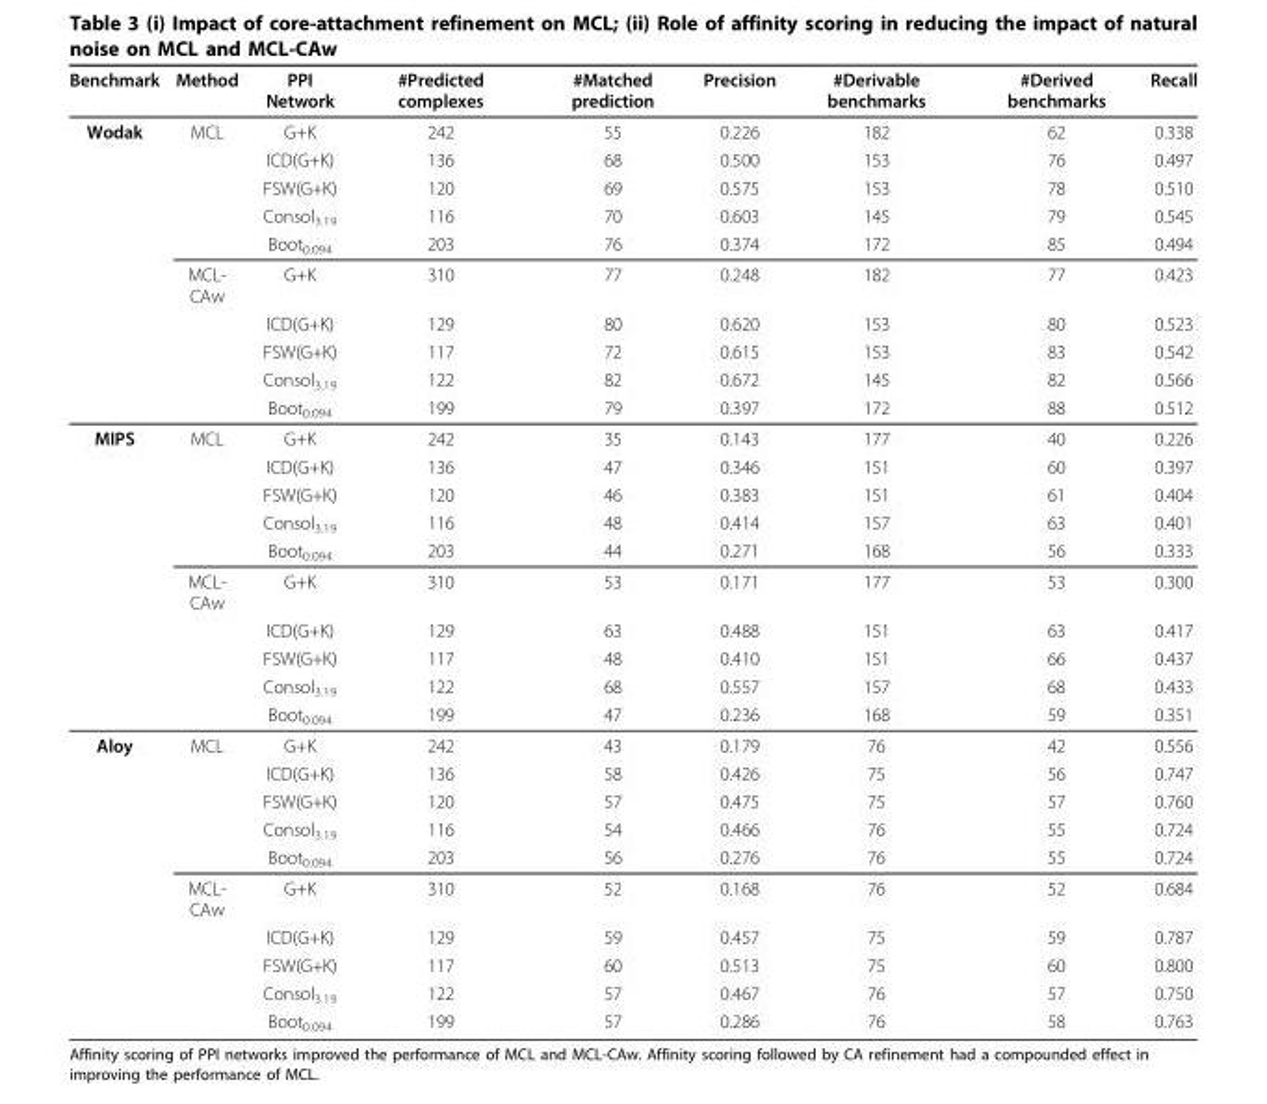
<table><thead><tr><td>Benchmark</td><td>Method</td><td>PPI Network</td><td>#Predicted complexes</td><td>#Matched prediction</td><td>Precision</td><td>#Derivable benchmarks</td><td>#Derived benchmarks</td><td>Recall</td></tr></thead><tbody><tr><td rowspan="10">Wodak</td><td>MCL</td><td>G+K</td><td>242</td><td>55</td><td>0.226</td><td>182</td><td>62</td><td>0.338</td></tr><tr><td></td><td>ICD(G+K)</td><td>136</td><td>68</td><td>0.500</td><td>153</td><td>76</td><td>0.497</td></tr><tr><td></td><td>FSW(G+K)</td><td>120</td><td>69</td><td>0.575</td><td>153</td><td>78</td><td>0.510</td></tr><tr><td></td><td>Consol<sub>3.19</sub></td><td>116</td><td>70</td><td>0.603</td><td>145</td><td>79</td><td>0.545</td></tr><tr><td></td><td>Boot<sub>0.094</sub></td><td>203</td><td>76</td><td>0.374</td><td>172</td><td>85</td><td>0.494</td></tr><tr><td>MCL- CAw</td><td>G+K</td><td>310</td><td>77</td><td>0.248</td><td>182</td><td>77</td><td>0.423</td></tr><tr><td></td><td>ICD(G+K)</td><td>129</td><td>80</td><td>0.620</td><td>153</td><td>80</td><td>0.523</td></tr><tr><td></td><td>FSW(G+K)</td><td>117</td><td>72</td><td>0.615</td><td>153</td><td>83</td><td>0.542</td></tr><tr><td></td><td>Consol<sub>3.19</sub></td><td>122</td><td>82</td><td>0.672</td><td>145</td><td>82</td><td>0.566</td></tr><tr><td></td><td>Boot<sub>0.094</sub></td><td>199</td><td>79</td><td>0.397</td><td>172</td><td>88</td><td>0.512</td></tr><tr><td rowspan="10">MIPS</td><td>MCL</td><td>G+K</td><td>242</td><td>35</td><td>0.143</td><td>177</td><td>40</td><td>0.226</td></tr><tr><td></td><td>ICD(G+K)</td><td>136</td><td>47</td><td>0.346</td><td>151</td><td>60</td><td>0.397</td></tr><tr><td></td><td>FSW(G+K)</td><td>120</td><td>46</td><td>0.383</td><td>151</td><td>61</td><td>0.404</td></tr><tr><td></td><td>Consol<sub>3.19</sub></td><td>116</td><td>48</td><td>0.414</td><td>157</td><td>63</td><td>0.401</td></tr><tr><td></td><td>Boot<sub>0.094</sub></td><td>203</td><td>44</td><td>0.271</td><td>168</td><td>56</td><td>0.333</td></tr><tr><td>MCL- CAw</td><td>G+K</td><td>310</td><td>53</td><td>0.171</td><td>177</td><td>53</td><td>0.300</td></tr><tr><td></td><td>ICD(G+K)</td><td>129</td><td>63</td><td>0.488</td><td>151</td><td>63</td><td>0.417</td></tr><tr><td></td><td>FSW(G+K)</td><td>117</td><td>48</td><td>0.410</td><td>151</td><td>66</td><td>0.437</td></tr><tr><td></td><td>Consol<sub>3.19</sub></td><td>122</td><td>68</td><td>0.557</td><td>157</td><td>68</td><td>0.433</td></tr><tr><td></td><td>Boot<sub>0.094</sub></td><td>199</td><td>47</td><td>0.236</td><td>168</td><td>59</td><td>0.351</td></tr><tr><td rowspan="10">Aloy</td><td>MCL</td><td>G+K</td><td>242</td><td>43</td><td>0.179</td><td>76</td><td>42</td><td>0.556</td></tr><tr><td></td><td>ICD(G+K)</td><td>136</td><td>58</td><td>0.426</td><td>75</td><td>56</td><td>0.747</td></tr><tr><td></td><td>FSW(G+K)</td><td>120</td><td>57</td><td>0.475</td><td>75</td><td>57</td><td>0.760</td></tr><tr><td></td><td>Consol<sub>3.19</sub></td><td>116</td><td>54</td><td>0.466</td><td>76</td><td>55</td><td>0.724</td></tr><tr><td></td><td>Boot<sub>0.094</sub></td><td>203</td><td>56</td><td>0.276</td><td>76</td><td>55</td><td>0.724</td></tr><tr><td>MCL- CAw</td><td>G+K</td><td>310</td><td>52</td><td>0.168</td><td>76</td><td>52</td><td>0.684</td></tr><tr><td></td><td>ICD(G+K)</td><td>129</td><td>59</td><td>0.457</td><td>75</td><td>59</td><td>0.787</td></tr><tr><td></td><td>FSW(G+K)</td><td>117</td><td>60</td><td>0.513</td><td>75</td><td>60</td><td>0.800</td></tr><tr><td></td><td>Consol<sub>3.19</sub></td><td>122</td><td>57</td><td>0.467</td><td>76</td><td>57</td><td>0.750</td></tr><tr><td></td><td>Boot<sub>0.094</sub></td><td>199</td><td>57</td><td>0.286</td><td>76</td><td>58</td><td>0.763</td></tr></tbody></table>